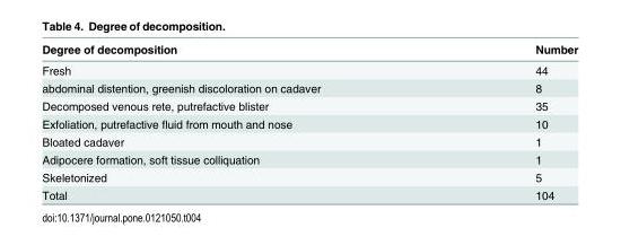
<table><thead><tr><td>Degree of decomposition</td><td>Number</td></tr></thead><tbody><tr><td>Fresh</td><td>44</td></tr><tr><td>abdominal distention, greenish discoloration on cadaver</td><td>8</td></tr><tr><td>Decomposed venous rete, putrefactive blister</td><td>35</td></tr><tr><td>Exfoliation, putrefactive fluid from mouth and nose</td><td>10</td></tr><tr><td>Bloated cadaver</td><td>1</td></tr><tr><td>Adipocere formation, soft tissue colliquation</td><td>1</td></tr><tr><td>Skeletonized</td><td>5</td></tr><tr><td>Total</td><td>104</td></tr></tbody></table>